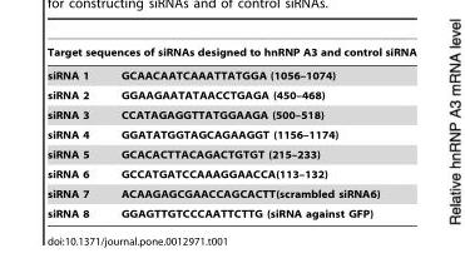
<table><thead><tr><td colspan="2">Target sequences of siRNAs designed to hnRNP A3 and control siRNA</td></tr><tr><td>siRNA 1</td><td>GCAACAATCAAATTATGGA (1056–1074)</td></tr></thead><tbody><tr><td>siRNA 2</td><td>GGAAGAATATAACCTGAGA (450–468)</td></tr><tr><td>siRNA 3</td><td>CCATAGAGGTTATGGAAGA (500–518)</td></tr><tr><td>siRNA 4</td><td>GGATATGGTAGCAGAAGGT (1156–1174)</td></tr><tr><td>siRNA 5</td><td>GCACACTTACAGACTGTGT (215–233)</td></tr><tr><td>siRNA 6</td><td>GCCATGATCCAAAGGAACCA(113–132)</td></tr><tr><td>siRNA 7</td><td>ACAAGAGCGAACCAGCACTT(scrambled siRNA6)</td></tr><tr><td>siRNA 8</td><td>GGAGTTGTCCCAATTCTTG (siRNA against GFP)</td></tr></tbody></table>